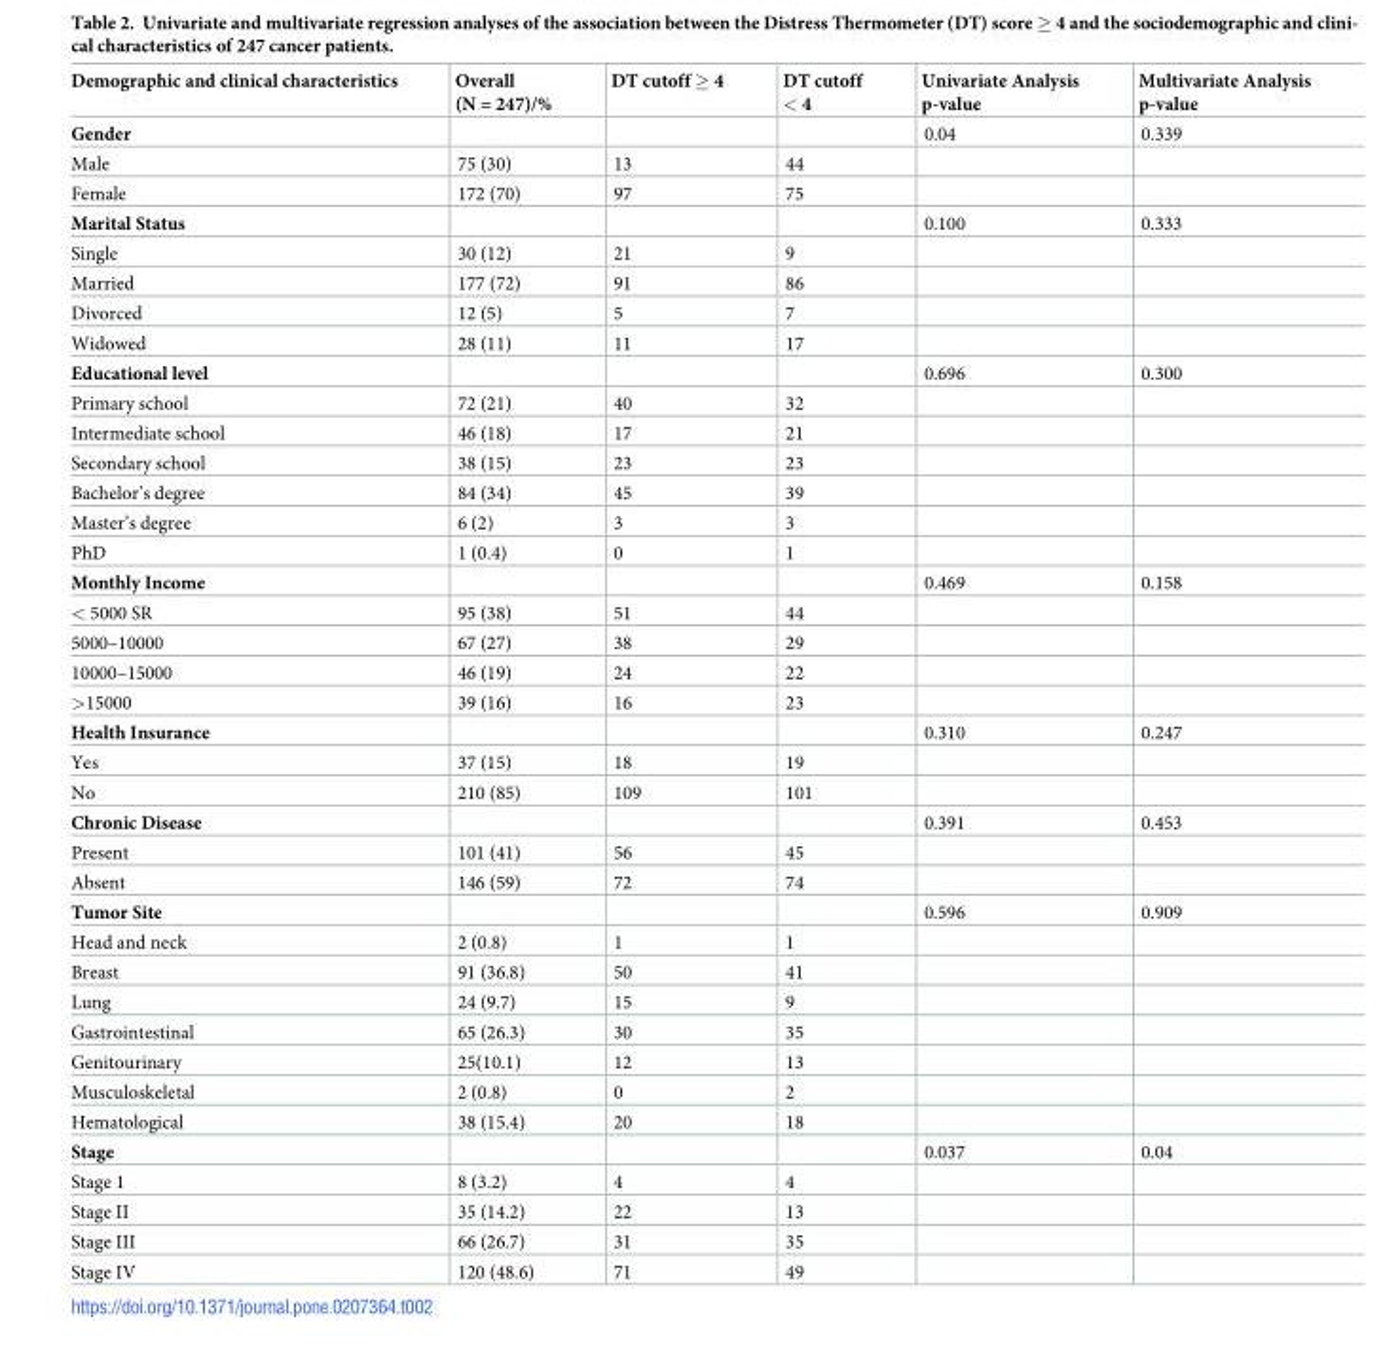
<table><thead><tr><td>Demographic and clinical characteristics</td><td>Overall (N = 247)/%</td><td>DT cutoff ≥ 4</td><td>DT cutoff &lt; 4</td><td>Univariate Analysis p-value</td><td>Multivariate Analysis p-value</td></tr></thead><tbody><tr><td>Gender</td><td></td><td></td><td></td><td>0.04</td><td>0.339</td></tr><tr><td>Male</td><td>75 (30)</td><td>13</td><td>44</td><td></td><td></td></tr><tr><td>Female</td><td>172 (70)</td><td>97</td><td>75</td><td></td><td></td></tr><tr><td>Marital Status</td><td></td><td></td><td></td><td>0.100</td><td>0.333</td></tr><tr><td>Single</td><td>30 (12)</td><td>21</td><td>9</td><td></td><td></td></tr><tr><td>Married</td><td>177 (72)</td><td>91</td><td>86</td><td></td><td></td></tr><tr><td>Divorced</td><td>12 (5)</td><td>5</td><td>7</td><td></td><td></td></tr><tr><td>Widowed</td><td>28 (11)</td><td>11</td><td>17</td><td></td><td></td></tr><tr><td>Educational level</td><td></td><td></td><td></td><td>0.696</td><td>0.300</td></tr><tr><td>Primary school</td><td>72 (21)</td><td>40</td><td>32</td><td></td><td></td></tr><tr><td>Intermediate school</td><td>46 (18)</td><td>17</td><td>21</td><td></td><td></td></tr><tr><td>Secondary school</td><td>38 (15)</td><td>23</td><td>23</td><td></td><td></td></tr><tr><td>Bachelor’s degree</td><td>84 (34)</td><td>45</td><td>39</td><td></td><td></td></tr><tr><td>Master’s degree</td><td>6 (2)</td><td>3</td><td>3</td><td></td><td></td></tr><tr><td>PhD</td><td>1 (0.4)</td><td>0</td><td>1</td><td></td><td></td></tr><tr><td>Monthly Income</td><td></td><td></td><td></td><td>0.469</td><td>0.158</td></tr><tr><td>&lt; 5000 SR</td><td>95 (38)</td><td>51</td><td>44</td><td></td><td></td></tr><tr><td>5000–10000</td><td>67 (27)</td><td>38</td><td>29</td><td></td><td></td></tr><tr><td>10000–15000</td><td>46 (19)</td><td>24</td><td>22</td><td></td><td></td></tr><tr><td>&gt;15000</td><td>39 (16)</td><td>16</td><td>23</td><td></td><td></td></tr><tr><td>Health Insurance</td><td></td><td></td><td></td><td>0.310</td><td>0.247</td></tr><tr><td>Yes</td><td>37 (15)</td><td>18</td><td>19</td><td></td><td></td></tr><tr><td>No</td><td>210 (85)</td><td>109</td><td>101</td><td></td><td></td></tr><tr><td>Chronic Disease</td><td></td><td></td><td></td><td>0.391</td><td>0.453</td></tr><tr><td>Present</td><td>101 (41)</td><td>56</td><td>45</td><td></td><td></td></tr><tr><td>Absent</td><td>146 (59)</td><td>72</td><td>74</td><td></td><td></td></tr><tr><td>Tumor Site</td><td></td><td></td><td></td><td>0.596</td><td>0.909</td></tr><tr><td>Head and neck</td><td>2 (0.8)</td><td>1</td><td>1</td><td></td><td></td></tr><tr><td>Breast</td><td>91 (36.8)</td><td>50</td><td>41</td><td></td><td></td></tr><tr><td>Lung</td><td>24 (9.7)</td><td>15</td><td>9</td><td></td><td></td></tr><tr><td>Gastrointestinal</td><td>65 (26.3)</td><td>30</td><td>35</td><td></td><td></td></tr><tr><td>Genitourinary</td><td>25(10.1)</td><td>12</td><td>13</td><td></td><td></td></tr><tr><td>Musculoskeletal</td><td>2 (0.8)</td><td>0</td><td>2</td><td></td><td></td></tr><tr><td>Hematological</td><td>38 (15.4)</td><td>20</td><td>18</td><td></td><td></td></tr><tr><td>Stage</td><td></td><td></td><td></td><td>0.037</td><td>0.04</td></tr><tr><td>Stage 1</td><td>8 (3.2)</td><td>4</td><td>4</td><td></td><td></td></tr><tr><td>Stage II</td><td>35 (14.2)</td><td>22</td><td>13</td><td></td><td></td></tr><tr><td>Stage III</td><td>66 (26.7)</td><td>31</td><td>35</td><td></td><td></td></tr><tr><td>Stage IV</td><td>120 (48.6)</td><td>71</td><td>49</td><td></td><td></td></tr></tbody></table>